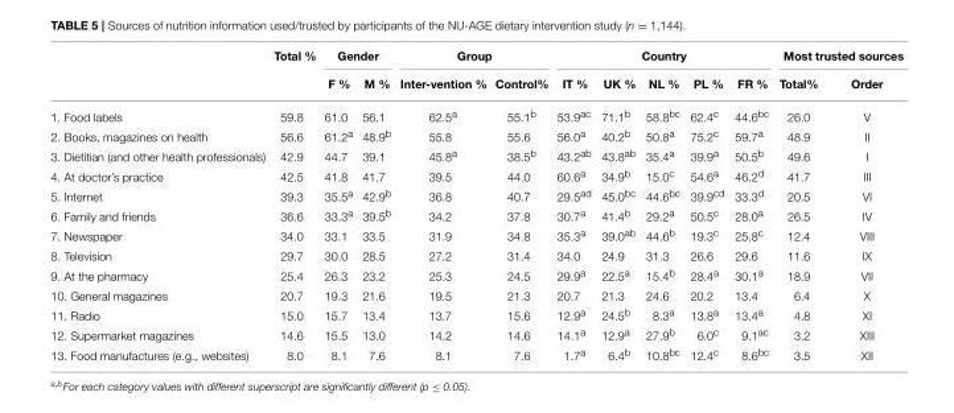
<table><thead><tr><td rowspan="2"></td><td rowspan="2">Total %</td><td colspan="2">Gender</td><td colspan="2">Group</td><td colspan="5">Country</td><td colspan="2">Most trusted sources</td></tr><tr><td>F %</td><td>M %</td><td>Inter-vention %</td><td>Control%</td><td>IT %</td><td>UK %</td><td>NL %</td><td>PL %</td><td>FR %</td><td>Total%</td><td>Order</td></tr></thead><tbody><tr><td>1. Food labels</td><td>59.8</td><td>61.0</td><td>56.1</td><td>62.5<sup>a</sup></td><td>55.1<sup>b</sup></td><td>53.9<sup>ac</sup></td><td>71.1<sup>b</sup></td><td>58.8<sup>bc</sup></td><td>62.4<sup>c</sup></td><td>44.6<sup>bc</sup></td><td>26.0</td><td>V</td></tr><tr><td>2. Books, magazines on health</td><td>56.6</td><td>61.2<sup>a</sup></td><td>48.9<sup>b</sup></td><td>55.8</td><td>55.6</td><td>56.0<sup>a</sup></td><td>40.2<sup>b</sup></td><td>50.8<sup>a</sup></td><td>75.2<sup>c</sup></td><td>59.7<sup>a</sup></td><td>48.9</td><td>II</td></tr><tr><td>3. Dietitian (and other health professionals)</td><td>42.9</td><td>44.7</td><td>39.1</td><td>45.8<sup>a</sup></td><td>38.5<sup>b</sup></td><td>43.2<sup>ab</sup></td><td>43.8<sup>ab</sup></td><td>35.4<sup>a</sup></td><td>39.9<sup>a</sup></td><td>50.5<sup>b</sup></td><td>49.6</td><td>I</td></tr><tr><td>4. At doctor’s practice</td><td>42.5</td><td>41.8</td><td>41.7</td><td>39.5</td><td>44.0</td><td>60.6<sup>a</sup></td><td>34.9<sup>b</sup></td><td>15.0<sup>c</sup></td><td>54.6<sup>a</sup></td><td>46.2<sup>d</sup></td><td>41.7</td><td>III</td></tr><tr><td>5. Internet</td><td>39.3</td><td>35.5<sup>a</sup></td><td>42.9<sup>b</sup></td><td>36.8</td><td>40.7</td><td>29.5<sup>ad</sup></td><td>45.0<sup>bc</sup></td><td>44.6<sup>bc</sup></td><td>39.9<sup>cd</sup></td><td>33.3<sup>d</sup></td><td>20.5</td><td>VI</td></tr><tr><td>6. Family and friends</td><td>36.6</td><td>33.3<sup>a</sup></td><td>39.5<sup>b</sup></td><td>34.2</td><td>37.8</td><td>30.7<sup>a</sup></td><td>41.4<sup>b</sup></td><td>29.2<sup>a</sup></td><td>50.5<sup>c</sup></td><td>28.0<sup>a</sup></td><td>26.5</td><td>IV</td></tr><tr><td>7. Newspaper</td><td>34.0</td><td>33.1</td><td>33.5</td><td>31.9</td><td>34.8</td><td>35.3<sup>a</sup></td><td>39.0<sup>ab</sup></td><td>44.6<sup>b</sup></td><td>19.3<sup>c</sup></td><td>25.8<sup>c</sup></td><td>12.4</td><td>VIII</td></tr><tr><td>8. Television</td><td>29.7</td><td>30.0</td><td>28.5</td><td>27.2</td><td>31.4</td><td>34.0</td><td>24.9</td><td>31.3</td><td>26.6</td><td>29.6</td><td>11.6</td><td>IX</td></tr><tr><td>9. At the pharmacy</td><td>25.4</td><td>26.3</td><td>23.2</td><td>25.3</td><td>24.5</td><td>29.9<sup>a</sup></td><td>22.5<sup>a</sup></td><td>15.4<sup>b</sup></td><td>28.4<sup>a</sup></td><td>30.1<sup>a</sup></td><td>18.9</td><td>VII</td></tr><tr><td>10. General magazines</td><td>20.7</td><td>19.3</td><td>21.6</td><td>19.5</td><td>21.3</td><td>20.7</td><td>21.3</td><td>24.6</td><td>20.2</td><td>13.4</td><td>6.4</td><td>X</td></tr><tr><td>11. Radio</td><td>15.0</td><td>15.7</td><td>13.4</td><td>13.7</td><td>15.6</td><td>12.9<sup>a</sup></td><td>24.5<sup>b</sup></td><td>8.3<sup>a</sup></td><td>13.8<sup>a</sup></td><td>13.4<sup>a</sup></td><td>4.8</td><td>XI</td></tr><tr><td>12. Supermarket magazines</td><td>14.6</td><td>15.5</td><td>13.0</td><td>14.2</td><td>14.6</td><td>14.1<sup>a</sup></td><td>12.9<sup>a</sup></td><td>27.9<sup>b</sup></td><td>6.0<sup>c</sup></td><td>9.1<sup>ac</sup></td><td>3.2</td><td>XIII</td></tr><tr><td>13. Food manufactures (e.g., websites)</td><td>8.0</td><td>8.1</td><td>7.6</td><td>8.1</td><td>7.6</td><td>1.7<sup>a</sup></td><td>6.4<sup>b</sup></td><td>10.8<sup>bc</sup></td><td>12.4<sup>c</sup></td><td>8.6<sup>bc</sup></td><td>3.5</td><td>XII</td></tr></tbody></table>